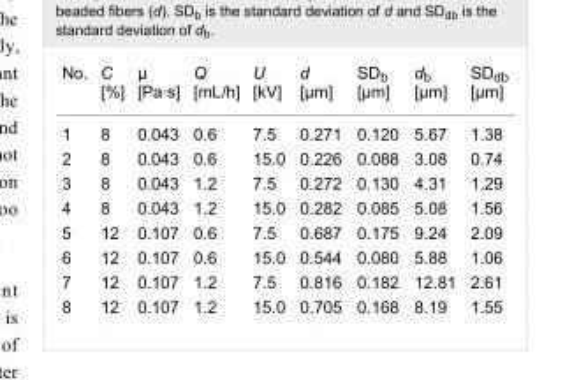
<table><tbody><tr><td>No.</td><td>C [%]</td><td>µ [Pa·s]</td><td>Q [mL/h]</td><td>U [kV]</td><td>d [µm]</td><td>SD<sub>b</sub> [µm]</td><td>d<sub>b</sub> [µm]</td><td>SD<sub>db</sub> [µm]</td></tr><tr><td>1</td><td>8</td><td>0.043</td><td>0.6</td><td>7.5</td><td>0.271</td><td>0.120</td><td>5.67</td><td>1.38</td></tr><tr><td>2</td><td>8</td><td>0.043</td><td>0.6</td><td>15.0</td><td>0.226</td><td>0.088</td><td>3.08</td><td>0.74</td></tr><tr><td>3</td><td>8</td><td>0.043</td><td>1.2</td><td>7.5</td><td>0.272</td><td>0.130</td><td>4.31</td><td>1.29</td></tr><tr><td>4</td><td>8</td><td>0.043</td><td>1.2</td><td>15.0</td><td>0.282</td><td>0.085</td><td>5.08</td><td>1.56</td></tr><tr><td>5</td><td>12</td><td>0.107</td><td>0.6</td><td>7.5</td><td>0.687</td><td>0.175</td><td>9.24</td><td>2.09</td></tr><tr><td>6</td><td>12</td><td>0.107</td><td>0.6</td><td>15.0</td><td>0.544</td><td>0.080</td><td>5.88</td><td>1.06</td></tr><tr><td>7</td><td>12</td><td>0.107</td><td>1.2</td><td>7.5</td><td>0.816</td><td>0.182</td><td>12.81</td><td>2.61</td></tr><tr><td>8</td><td>12</td><td>0.107</td><td>1.2</td><td>15.0</td><td>0.705</td><td>0.168</td><td>8.19</td><td>1.55</td></tr></tbody></table>